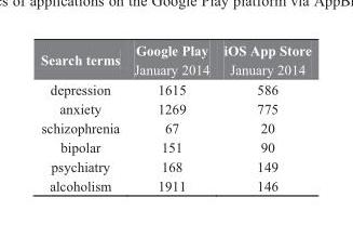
<table><thead><tr><td>Search terms</td><td>Google Play January 2014</td><td>iOS App Store January 2014</td></tr></thead><tbody><tr><td>depression</td><td>1615</td><td>586</td></tr><tr><td>anxiety</td><td>1269</td><td>775</td></tr><tr><td>schizophrenia</td><td>67</td><td>20</td></tr><tr><td>bipolar</td><td>151</td><td>90</td></tr><tr><td>psychiatry</td><td>168</td><td>149</td></tr><tr><td>alcoholism</td><td>1911</td><td>146</td></tr></tbody></table>